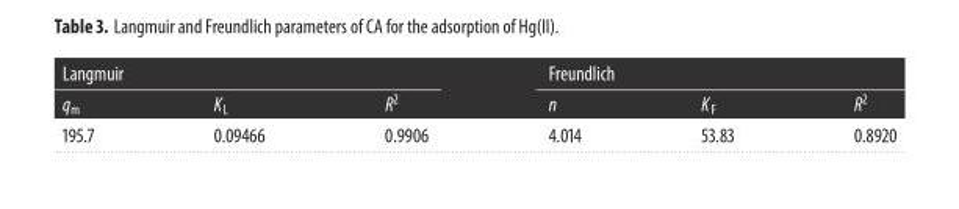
<table><thead><tr><td colspan="3">Langmuir</td><td colspan="3">Freundlich</td></tr><tr><td>q<sub>m</sub></td><td>K<sub>L</sub></td><td>R<sup>2</sup></td><td>n</td><td>K<sub>F</sub></td><td>R<sup>2</sup></td></tr></thead><tbody><tr><td>195.7</td><td>0.09466</td><td>0.9906</td><td>4.014</td><td>53.83</td><td>0.8920</td></tr></tbody></table>